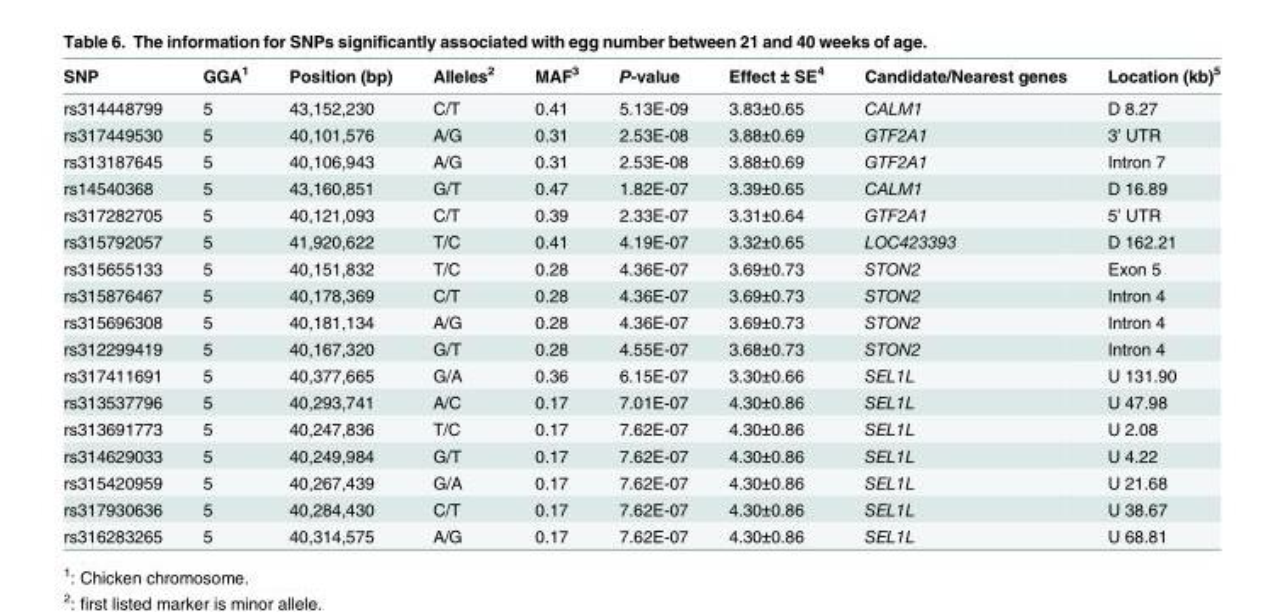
<table><thead><tr><td>SNP</td><td>GGA<sup>1</sup></td><td>Position (bp)</td><td>Alleles<sup>2</sup></td><td>MAF<sup>3</sup></td><td>P-value</td><td>Effect ± SE<sup>4</sup></td><td>Candidate/Nearest genes</td><td>Location (kb)<sup>5</sup></td></tr></thead><tbody><tr><td>rs314448799</td><td>5</td><td>43,152,230</td><td>C/T</td><td>0.41</td><td>5.13E-09</td><td>3.83±0.65</td><td>CALM1</td><td>D 8.27</td></tr><tr><td>rs317449530</td><td>5</td><td>40,101,576</td><td>A/G</td><td>0.31</td><td>2.53E-08</td><td>3.88±0.69</td><td>GTF2A1</td><td>3’ UTR</td></tr><tr><td>rs313187645</td><td>5</td><td>40,106,943</td><td>A/G</td><td>0.31</td><td>2.53E-08</td><td>3.88±0.69</td><td>GTF2A1</td><td>Intron 7</td></tr><tr><td>rs14540368</td><td>5</td><td>43,160,851</td><td>G/T</td><td>0.47</td><td>1.82E-07</td><td>3.39±0.65</td><td>CALM1</td><td>D 16.89</td></tr><tr><td>rs317282705</td><td>5</td><td>40,121,093</td><td>C/T</td><td>0.39</td><td>2.33E-07</td><td>3.31±0.64</td><td>GTF2A1</td><td>5’ UTR</td></tr><tr><td>rs315792057</td><td>5</td><td>41,920,622</td><td>T/C</td><td>0.41</td><td>4.19E-07</td><td>3.32±0.65</td><td>LOC423393</td><td>D 162.21</td></tr><tr><td>rs315655133</td><td>5</td><td>40,151,832</td><td>T/C</td><td>0.28</td><td>4.36E-07</td><td>3.69±0.73</td><td>STON2</td><td>Exon 5</td></tr><tr><td>rs315876467</td><td>5</td><td>40,178,369</td><td>C/T</td><td>0.28</td><td>4.36E-07</td><td>3.69±0.73</td><td>STON2</td><td>Intron 4</td></tr><tr><td>rs315696308</td><td>5</td><td>40,181,134</td><td>A/G</td><td>0.28</td><td>4.36E-07</td><td>3.69±0.73</td><td>STON2</td><td>Intron 4</td></tr><tr><td>rs312299419</td><td>5</td><td>40,167,320</td><td>G/T</td><td>0.28</td><td>4.55E-07</td><td>3.68±0.73</td><td>STON2</td><td>Intron 4</td></tr><tr><td>rs317411691</td><td>5</td><td>40,377,665</td><td>G/A</td><td>0.36</td><td>6.15E-07</td><td>3.30±0.66</td><td>SEL1L</td><td>U 131.90</td></tr><tr><td>rs313537796</td><td>5</td><td>40,293,741</td><td>A/C</td><td>0.17</td><td>7.01E-07</td><td>4.30±0.86</td><td>SEL1L</td><td>U 47.98</td></tr><tr><td>rs313691773</td><td>5</td><td>40,247,836</td><td>T/C</td><td>0.17</td><td>7.62E-07</td><td>4.30±0.86</td><td>SEL1L</td><td>U 2.08</td></tr><tr><td>rs314629033</td><td>5</td><td>40,249,984</td><td>G/T</td><td>0.17</td><td>7.62E-07</td><td>4.30±0.86</td><td>SEL1L</td><td>U 4.22</td></tr><tr><td>rs315420959</td><td>5</td><td>40,267,439</td><td>G/A</td><td>0.17</td><td>7.62E-07</td><td>4.30±0.86</td><td>SEL1L</td><td>U 21.68</td></tr><tr><td>rs317930636</td><td>5</td><td>40,284,430</td><td>C/T</td><td>0.17</td><td>7.62E-07</td><td>4.30±0.86</td><td>SEL1L</td><td>U 38.67</td></tr><tr><td>rs316283265</td><td>5</td><td>40,314,575</td><td>A/G</td><td>0.17</td><td>7.62E-07</td><td>4.30±0.86</td><td>SEL1L</td><td>U 68.81</td></tr></tbody></table>